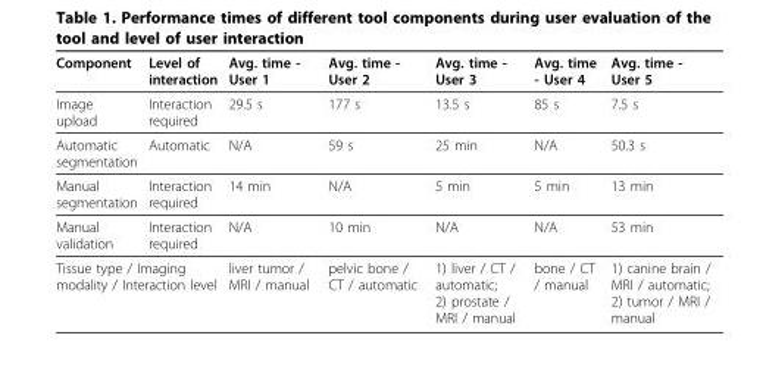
<table><thead><tr><td>Component</td><td>Level of interaction</td><td>Avg. time - User 1</td><td>Avg. time - User 2</td><td>Avg. time - User 3</td><td>Avg. time - User 4</td><td>Avg. time - User 5</td></tr></thead><tbody><tr><td>Image upload</td><td>Interaction required</td><td>29.5 s</td><td>177 s</td><td>13.5 s</td><td>85 s</td><td>7.5 s</td></tr><tr><td>Automatic segmentation</td><td>Automatic</td><td>N/A</td><td>59 s</td><td>25 min</td><td>N/A</td><td>50.3 s</td></tr><tr><td>Manual segmentation</td><td>Interaction required</td><td>14 min</td><td>N/A</td><td>5 min</td><td>5 min</td><td>13 min</td></tr><tr><td>Manual validation</td><td>Interaction required</td><td>N/A</td><td>10 min</td><td>N/A</td><td>N/A</td><td>53 min</td></tr><tr><td colspan="2">Tissue type / Imaging modality / Interaction level</td><td>liver tumor / MRI / manual</td><td>pelvic bone / CT / automatic</td><td>1) liver / CT / automatic; 2) prostate / MRI / manual</td><td>bone / CT / manual</td><td>1) canine brain / MRI / automatic; 2) tumor / MRI / manual</td></tr></tbody></table>